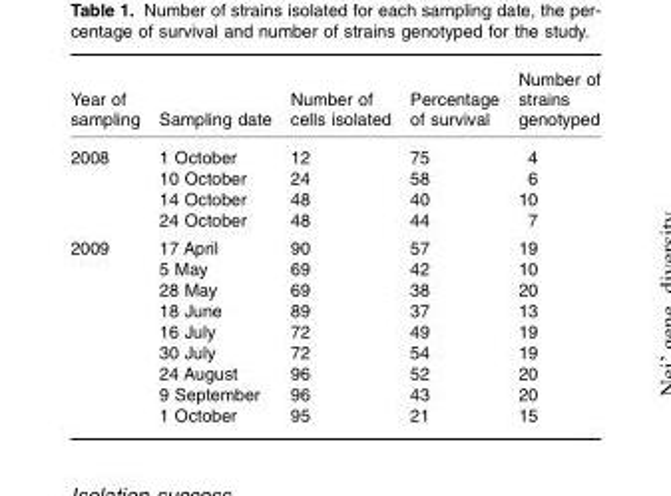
<table><thead><tr><td>Year of sampling</td><td>Sampling date</td><td>Number of cells isolated</td><td>Percentage of survival</td><td>Number of strains genotyped</td></tr></thead><tbody><tr><td rowspan="4">2008</td><td>1 October</td><td>12</td><td>75</td><td>4</td></tr><tr><td>10 October</td><td>24</td><td>58</td><td>6</td></tr><tr><td>14 October</td><td>48</td><td>40</td><td>10</td></tr><tr><td>24 October</td><td>48</td><td>44</td><td>7</td></tr><tr><td rowspan="9">2009</td><td>17 April</td><td>90</td><td>57</td><td>19</td></tr><tr><td>5 May</td><td>69</td><td>42</td><td>10</td></tr><tr><td>28 May</td><td>69</td><td>38</td><td>20</td></tr><tr><td>18 June</td><td>89</td><td>37</td><td>13</td></tr><tr><td>16 July</td><td>72</td><td>49</td><td>19</td></tr><tr><td>30 July</td><td>72</td><td>54</td><td>19</td></tr><tr><td>24 August</td><td>96</td><td>52</td><td>20</td></tr><tr><td>9 September</td><td>96</td><td>43</td><td>20</td></tr><tr><td>1 October</td><td>95</td><td>21</td><td>15</td></tr></tbody></table>